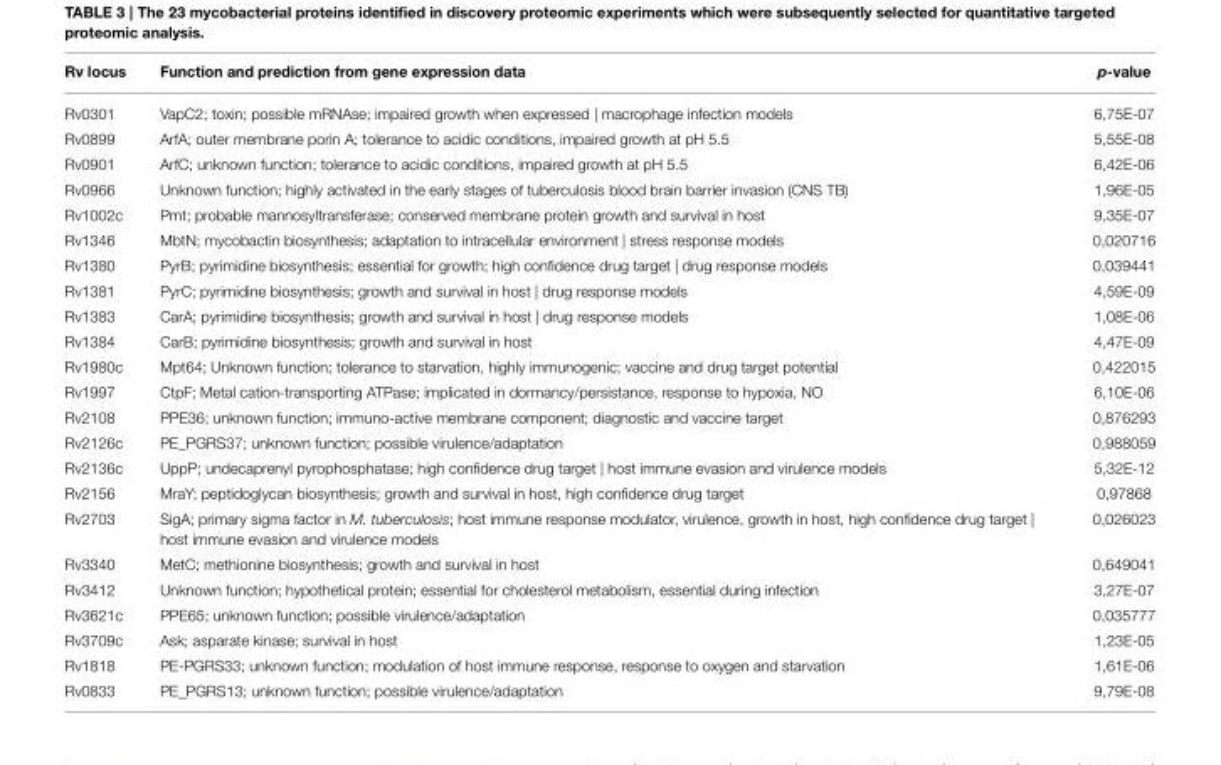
<table><thead><tr><td>Rv locus</td><td>Function and prediction from gene expression data</td><td>p-value</td></tr></thead><tbody><tr><td>Rv0301</td><td>VapC2; toxin; possible mRNAse; impaired growth when expressed | macrophage infection models</td><td>6,75E-07</td></tr><tr><td>Rv0899</td><td>ArfA; outer membrane porin A; tolerance to acidic conditions, impaired growth at pH 5.5</td><td>5,55E-08</td></tr><tr><td>Rv0901</td><td>ArfC; unknown function; tolerance to acidic conditions, impaired growth at pH 5.5</td><td>6,42E-06</td></tr><tr><td>Rv0966</td><td>Unknown function; highly activated in the early stages of tuberculosis blood brain barrier invasion (CNS TB)</td><td>1,96E-05</td></tr><tr><td>Rv1002c</td><td>Pmt; probable mannosyltransferase; conserved membrane protein growth and survival in host</td><td>9,35E-07</td></tr><tr><td>Rv1346</td><td>MbtN; mycobactin biosynthesis; adaptation to intracellular environment | stress response models</td><td>0,020716</td></tr><tr><td>Rv1380</td><td>PyrB; pyrimidine biosynthesis; essential for growth; high confidence drug target | drug response models</td><td>0,039441</td></tr><tr><td>Rv1381</td><td>PyrC; pyrimidine biosynthesis; growth and survival in host | drug response models</td><td>4,59E-09</td></tr><tr><td>Rv1383</td><td>CarA; pyrimidine biosynthesis; growth and survival in host | drug response models</td><td>1,08E-06</td></tr><tr><td>Rv1384</td><td>CarB; pyrimidine biosynthesis; growth and survival in host</td><td>4,47E-09</td></tr><tr><td>Rv1980c</td><td>Mpt64; Unknown function; tolerance to starvation, highly immunogenic; vaccine and drug target potential</td><td>0,422015</td></tr><tr><td>Rv1997</td><td>CtpF; Metal cation-transporting ATPase; implicated in dormancy/persistance, response to hypoxia, NO</td><td>6,10E-06</td></tr><tr><td>Rv2108</td><td>PPE36; unknown function; immuno-active membrane component; diagnostic and vaccine target</td><td>0,876293</td></tr><tr><td>Rv2126c</td><td>PE_PGRS37; unknown function; possible virulence/adaptation</td><td>0,988059</td></tr><tr><td>Rv2136c</td><td>UppP; undecaprenyl pyrophosphatase; high confidence drug target | host immune evasion and virulence models</td><td>5,32E-12</td></tr><tr><td>Rv2156</td><td>MraY; peptidoglycan biosynthesis; growth and survival in host, high confidence drug target</td><td>0,97868</td></tr><tr><td>Rv2703</td><td>SigA; primary sigma factor in M. tuberculosis; host immune response modulator, virulence, growth in host, high confidence drug target | host immune evasion and virulence models</td><td>0,026023</td></tr><tr><td>Rv3340</td><td>MetC; methionine biosynthesis; growth and survival in host</td><td>0,649041</td></tr><tr><td>Rv3412</td><td>Unknown function; hypothetical protein; essential for cholesterol metabolism, essential during infection</td><td>3,27E-07</td></tr><tr><td>Rv3621c</td><td>PPE65; unknown function; possible virulence/adaptation</td><td>0,035777</td></tr><tr><td>Rv3709c</td><td>Ask; asparate kinase; survival in host</td><td>1,23E-05</td></tr><tr><td>Rv1818</td><td>PE-PGRS33; unknown function; modulation of host immune response, response to oxygen and starvation</td><td>1,61E-06</td></tr><tr><td>Rv0833</td><td>PE_PGRS13; unknown function; possible virulence/adaptation</td><td>9,79E-08</td></tr></tbody></table>